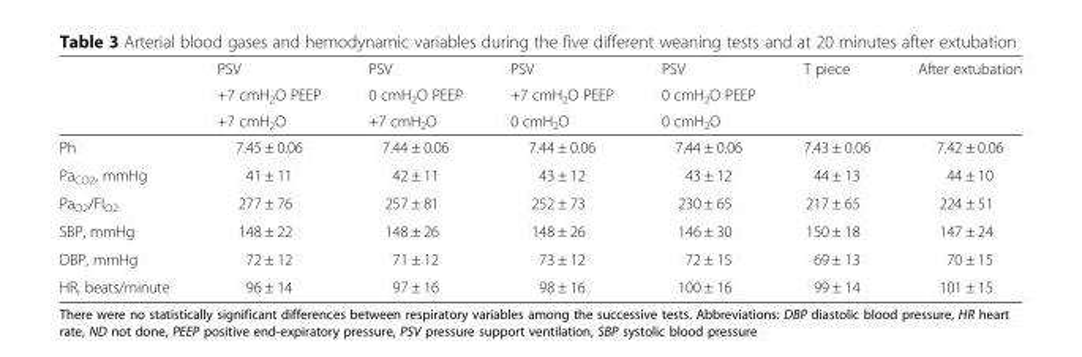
<table><thead><tr><td rowspan="3"></td><td rowspan="3">PSV +7 cmH<sub>2</sub>O PEEP +7 cmH<sub>2</sub>O</td><td rowspan="3">PSV 0 cmH<sub>2</sub>O PEEP +7 cmH<sub>2</sub>O</td><td rowspan="3">PSV +7 cmH<sub>2</sub>O PEEP 0 cmH<sub>2</sub>O</td><td rowspan="3">PSV 0 cmH<sub>2</sub>O PEEP 0 cmH<sub>2</sub>O</td><td rowspan="3">T piece</td><td rowspan="3">After extubation</td></tr><tr></tr><tr></tr></thead><tbody><tr><td>Ph</td><td>7.45 ± 0.06</td><td>7.44 ± 0.06</td><td>7.44 ± 0.06</td><td>7.44 ± 0.06</td><td>7.43 ± 0.06</td><td>7.42 ± 0.06</td></tr><tr><td>Pa<sub>CO2</sub>, mmHg</td><td>41 ± 11</td><td>42 ± 11</td><td>43 ± 12</td><td>43 ± 12</td><td>44 ± 13</td><td>44 ± 10</td></tr><tr><td>Pa<sub>O2</sub>/FI<sub>O2</sub></td><td>277 ± 76</td><td>257 ± 81</td><td>252 ± 73</td><td>230 ± 65</td><td>217 ± 65</td><td>224 ± 51</td></tr><tr><td>SBP, mmHg</td><td>148 ± 22</td><td>148 ± 26</td><td>148 ± 26</td><td>146 ± 30</td><td>150 ± 18</td><td>147 ± 24</td></tr><tr><td>DBP, mmHg</td><td>72 ± 12</td><td>71 ± 12</td><td>73 ± 12</td><td>72 ± 15</td><td>69 ± 13</td><td>70 ± 15</td></tr><tr><td>HR, beats/minute</td><td>96 ± 14</td><td>97 ± 16</td><td>98 ± 16</td><td>100 ± 16</td><td>99 ± 14</td><td>101 ± 15</td></tr></tbody></table>